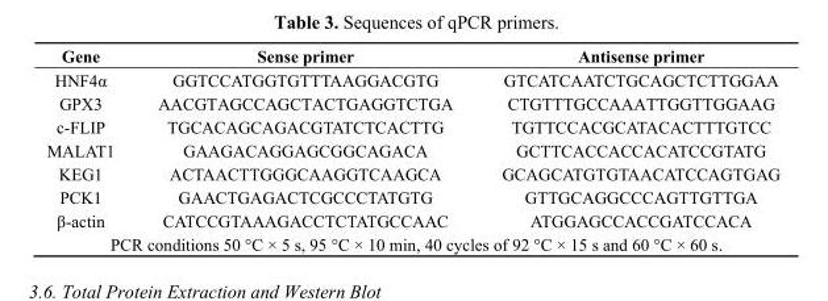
<table><thead><tr><td>Gene</td><td>Sense primer</td><td>Antisense primer</td></tr></thead><tbody><tr><td>HNF4α</td><td>GGTCCATGGTGTTTAAGGACGTG</td><td>GTCATCAATCTGCAGCTCTTGGAA</td></tr><tr><td>GPX3</td><td>AACGTAGCCAGCTACTGAGGTCTGA</td><td>CTGTTTGCCAAATTGGTTGGAAG</td></tr><tr><td>c-FLIP</td><td>TGCACAGCAGACGTATCTCACTTG</td><td>TGTTCCACGCATACACTTTGTCC</td></tr><tr><td>MALAT1</td><td>GAAGACAGGAGCGGCAGACA</td><td>GCTTCACCACCACATCCGTATG</td></tr><tr><td>KEG1</td><td>ACTAACTTGGGCAAGGTCAAGCA</td><td>GCAGCATGTGTAACATCCAGTGAG</td></tr><tr><td>PCK1</td><td>GAACTGAGACTCGCCCTATGTG</td><td>GTTGCAGGCCCAGTTGTTGA</td></tr><tr><td>β-actin</td><td>CATCCGTAAAGACCTCTATGCCAAC</td><td>ATGGAGCCACCGATCCACA</td></tr><tr><td colspan="3">PCR conditions 50 °C × 5 s, 95 °C × 10 min, 40 cycles of 92 °C × 15 s and 60 °C × 60 s.</td></tr></tbody></table>